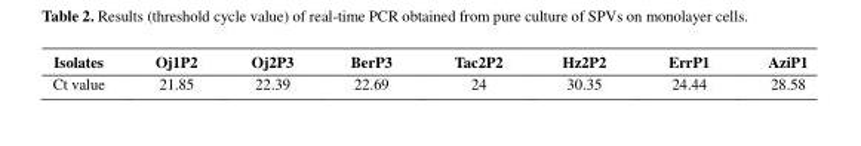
<table><thead><tr><td>Isolates</td><td>Oj1P2</td><td>Oj2P3</td><td>BerP3</td><td>Tac2P2</td><td>Hz2P2</td><td>ErrP1</td><td>AziP1</td></tr></thead><tbody><tr><td>Ct value</td><td>21.85</td><td>22.39</td><td>22.69</td><td>24</td><td>30.35</td><td>24.44</td><td>28.58</td></tr></tbody></table>